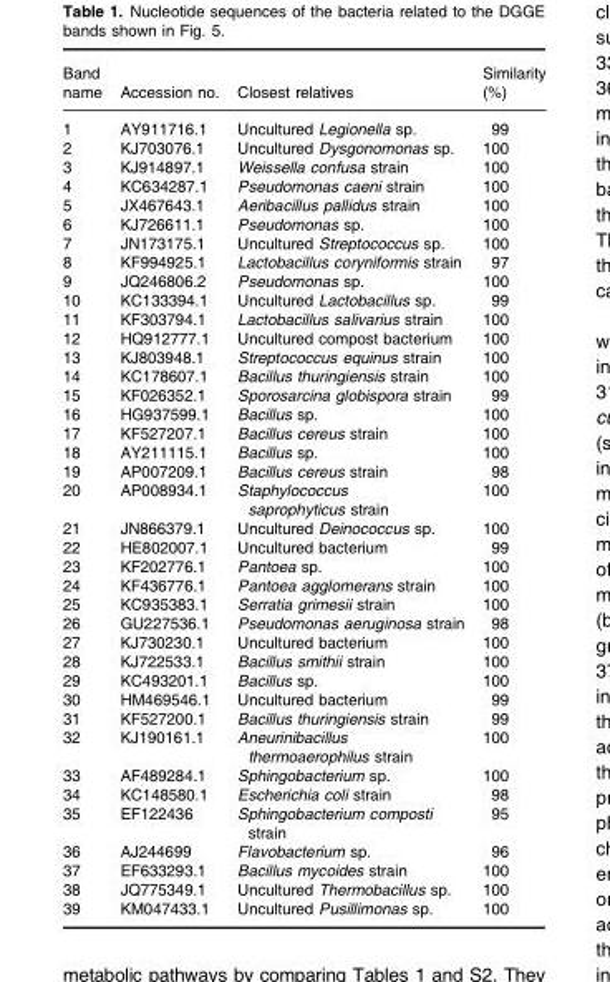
<table><thead><tr><td>Band name</td><td>Accession no.</td><td>Closest relatives</td><td>Similarity (%)</td></tr></thead><tbody><tr><td>1</td><td>AY911716.1</td><td>Uncultured Legionella sp.</td><td>99</td></tr><tr><td>2</td><td>KJ703076.1</td><td>Uncultured Dysgonomonas sp.</td><td>100</td></tr><tr><td>3</td><td>KJ914897.1</td><td>Weissella confusa strain</td><td>100</td></tr><tr><td>4</td><td>KC634287.1</td><td>Pseudomonas caeni strain</td><td>100</td></tr><tr><td>5</td><td>JX467643.1</td><td>Aeribacillus pallidus strain</td><td>100</td></tr><tr><td>6</td><td>KJ726611.1</td><td>Pseudomonas sp.</td><td>100</td></tr><tr><td>7</td><td>JN173175.1</td><td>Uncultured Streptococcus sp.</td><td>100</td></tr><tr><td>8</td><td>KF994925.1</td><td>Lactobacillus coryniformis strain</td><td>97</td></tr><tr><td>9</td><td>JQ246806.2</td><td>Pseudomonas sp.</td><td>100</td></tr><tr><td>10</td><td>KC133394.1</td><td>Uncultured Lactobacillus sp.</td><td>99</td></tr><tr><td>11</td><td>KF303794.1</td><td>Lactobacillus salivarius strain</td><td>100</td></tr><tr><td>12</td><td>HQ912777.1</td><td>Uncultured compost bacterium</td><td>100</td></tr><tr><td>13</td><td>KJ803948.1</td><td>Streptococcus equinus strain</td><td>100</td></tr><tr><td>14</td><td>KC178607.1</td><td>Bacillus thuringiensis strain</td><td>100</td></tr><tr><td>15</td><td>KF026352.1</td><td>Sporosarcina globispora strain</td><td>99</td></tr><tr><td>16</td><td>HG937599.1</td><td>Bacillus sp.</td><td>100</td></tr><tr><td>17</td><td>KF527207.1</td><td>Bacillus cereus strain</td><td>100</td></tr><tr><td>18</td><td>AY211115.1</td><td>Bacillus sp.</td><td>100</td></tr><tr><td>19</td><td>AP007209.1</td><td>Bacillus cereus strain</td><td>98</td></tr><tr><td>20</td><td>AP008934.1</td><td>Staphylococcus saprophyticus strain</td><td>100</td></tr><tr><td>21</td><td>JN866379.1</td><td>Uncultured Deinococcus sp.</td><td>100</td></tr><tr><td>22</td><td>HE802007.1</td><td>Uncultured bacterium</td><td>99</td></tr><tr><td>23</td><td>KF202776.1</td><td>Pantoea sp.</td><td>100</td></tr><tr><td>24</td><td>KF436776.1</td><td>Pantoea agglomerans strain</td><td>100</td></tr><tr><td>25</td><td>KC935383.1</td><td>Serratia grimesii strain</td><td>100</td></tr><tr><td>26</td><td>GU227536.1</td><td>Pseudomonas aeruginosa strain</td><td>98</td></tr><tr><td>27</td><td>KJ730230.1</td><td>Uncultured bacterium</td><td>100</td></tr><tr><td>28</td><td>KJ722533.1</td><td>Bacillus smithii strain</td><td>100</td></tr><tr><td>29</td><td>KC493201.1</td><td>Bacillus sp.</td><td>100</td></tr><tr><td>30</td><td>HM469546.1</td><td>Uncultured bacterium</td><td>99</td></tr><tr><td>31</td><td>KF527200.1</td><td>Bacillus thuringiensis strain</td><td>99</td></tr><tr><td>32</td><td>KJ190161.1</td><td>Aneurinibacillus thermoaerophilus strain</td><td>100</td></tr><tr><td>33</td><td>AF489284.1</td><td>Sphingobacterium sp.</td><td>100</td></tr><tr><td>34</td><td>KC148580.1</td><td>Escherichia coli strain</td><td>98</td></tr><tr><td>35</td><td>EF122436</td><td>Sphingobacterium composti strain</td><td>95</td></tr><tr><td>36</td><td>AJ244699</td><td>Flavobacterium sp.</td><td>96</td></tr><tr><td>37</td><td>EF633293.1</td><td>Bacillus mycoides strain</td><td>100</td></tr><tr><td>38</td><td>JQ775349.1</td><td>Uncultured Thermobacillus sp.</td><td>100</td></tr><tr><td>39</td><td>KM047433.1</td><td>Uncultured Pusillimonas sp.</td><td>100</td></tr></tbody></table>